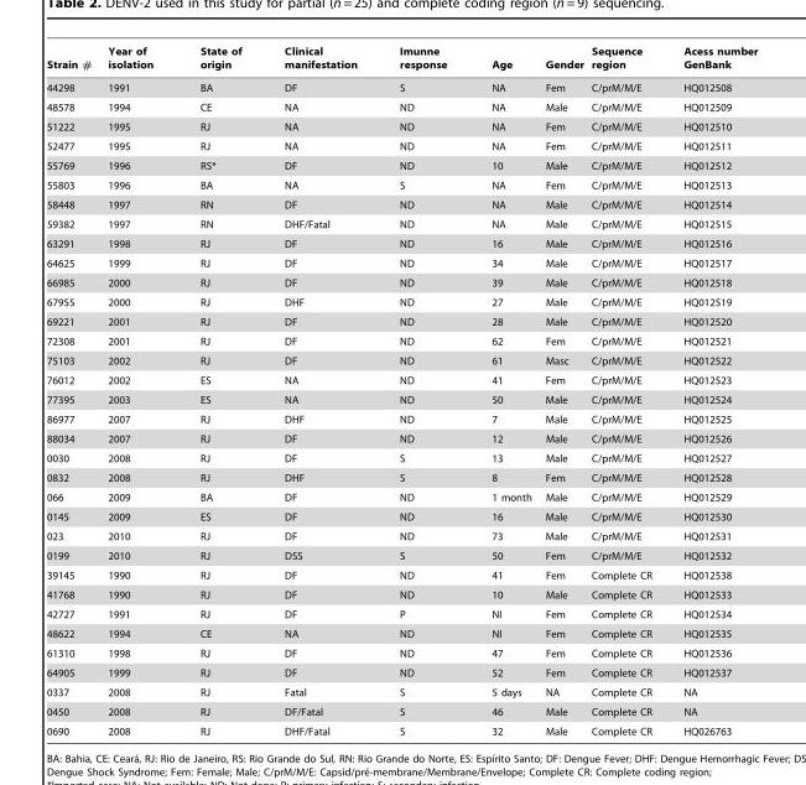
<table><thead><tr><td>Strain #</td><td>Year of isolation</td><td>State of origin</td><td>Clinical manifestation</td><td>Imunne response</td><td>Age</td><td>Gender</td><td>Sequence region</td><td>Acess number GenBank</td></tr></thead><tbody><tr><td>44298</td><td>1991</td><td>BA</td><td>DF</td><td>S</td><td>NA</td><td>Fem</td><td>C/prM/M/E</td><td>HQ012508</td></tr><tr><td>48578</td><td>1994</td><td>CE</td><td>NA</td><td>ND</td><td>NA</td><td>Male</td><td>C/prM/M/E</td><td>HQ012509</td></tr><tr><td>51222</td><td>1995</td><td>RJ</td><td>NA</td><td>ND</td><td>NA</td><td>Fem</td><td>C/prM/M/E</td><td>HQ012510</td></tr><tr><td>52477</td><td>1995</td><td>RJ</td><td>NA</td><td>ND</td><td>NA</td><td>Fem</td><td>C/prM/M/E</td><td>HQ012511</td></tr><tr><td>55769</td><td>1996</td><td>RS*</td><td>DF</td><td>ND</td><td>10</td><td>Male</td><td>C/prM/M/E</td><td>HQ012512</td></tr><tr><td>55803</td><td>1996</td><td>BA</td><td>NA</td><td>S</td><td>NA</td><td>Fem</td><td>C/prM/M/E</td><td>HQ012513</td></tr><tr><td>58448</td><td>1997</td><td>RN</td><td>DF</td><td>ND</td><td>NA</td><td>Male</td><td>C/prM/M/E</td><td>HQ012514</td></tr><tr><td>59382</td><td>1997</td><td>RN</td><td>DHF/Fatal</td><td>ND</td><td>NA</td><td>Male</td><td>C/prM/M/E</td><td>HQ012515</td></tr><tr><td>63291</td><td>1998</td><td>RJ</td><td>DF</td><td>ND</td><td>16</td><td>Male</td><td>C/prM/M/E</td><td>HQ012516</td></tr><tr><td>64625</td><td>1999</td><td>RJ</td><td>DF</td><td>ND</td><td>34</td><td>Male</td><td>C/prM/M/E</td><td>HQ012517</td></tr><tr><td>66985</td><td>2000</td><td>RJ</td><td>DF</td><td>ND</td><td>39</td><td>Male</td><td>C/prM/M/E</td><td>HQ012518</td></tr><tr><td>67955</td><td>2000</td><td>RJ</td><td>DHF</td><td>ND</td><td>27</td><td>Male</td><td>C/prM/M/E</td><td>HQ012519</td></tr><tr><td>69221</td><td>2001</td><td>RJ</td><td>DF</td><td>ND</td><td>28</td><td>Male</td><td>C/prM/M/E</td><td>HQ012520</td></tr><tr><td>72308</td><td>2001</td><td>RJ</td><td>DF</td><td>ND</td><td>62</td><td>Fem</td><td>C/prM/M/E</td><td>HQ012521</td></tr><tr><td>75103</td><td>2002</td><td>RJ</td><td>DF</td><td>ND</td><td>61</td><td>Masc</td><td>C/prM/M/E</td><td>HQ012522</td></tr><tr><td>76012</td><td>2002</td><td>ES</td><td>NA</td><td>ND</td><td>41</td><td>Fem</td><td>C/prM/M/E</td><td>HQ012523</td></tr><tr><td>77395</td><td>2003</td><td>ES</td><td>NA</td><td>ND</td><td>50</td><td>Male</td><td>C/prM/M/E</td><td>HQ012524</td></tr><tr><td>86977</td><td>2007</td><td>RJ</td><td>DHF</td><td>ND</td><td>7</td><td>Male</td><td>C/prM/M/E</td><td>HQ012525</td></tr><tr><td>88034</td><td>2007</td><td>RJ</td><td>DF</td><td>ND</td><td>12</td><td>Male</td><td>C/prM/M/E</td><td>HQ012526</td></tr><tr><td>0030</td><td>2008</td><td>RJ</td><td>DF</td><td>S</td><td>13</td><td>Male</td><td>C/prM/M/E</td><td>HQ012527</td></tr><tr><td>0832</td><td>2008</td><td>RJ</td><td>DHF</td><td>S</td><td>8</td><td>Fem</td><td>C/prM/M/E</td><td>HQ012528</td></tr><tr><td>066</td><td>2009</td><td>BA</td><td>DF</td><td>ND</td><td>1 month</td><td>Male</td><td>C/prM/M/E</td><td>HQ012529</td></tr><tr><td>0145</td><td>2009</td><td>ES</td><td>DF</td><td>ND</td><td>16</td><td>Male</td><td>C/prM/M/E</td><td>HQ012530</td></tr><tr><td>023</td><td>2010</td><td>RJ</td><td>DF</td><td>ND</td><td>73</td><td>Male</td><td>C/prM/M/E</td><td>HQ012531</td></tr><tr><td>0199</td><td>2010</td><td>RJ</td><td>DSS</td><td>S</td><td>50</td><td>Fem</td><td>C/prM/M/E</td><td>HQ012532</td></tr><tr><td>39145</td><td>1990</td><td>RJ</td><td>DF</td><td>ND</td><td>41</td><td>Fem</td><td>Complete CR</td><td>HQ012538</td></tr><tr><td>41768</td><td>1990</td><td>RJ</td><td>DF</td><td>ND</td><td>10</td><td>Male</td><td>Complete CR</td><td>HQ012533</td></tr><tr><td>42727</td><td>1991</td><td>RJ</td><td>DF</td><td>P</td><td>NI</td><td>Fem</td><td>Complete CR</td><td>HQ012534</td></tr><tr><td>48622</td><td>1994</td><td>CE</td><td>NA</td><td>ND</td><td>NI</td><td>Fem</td><td>Complete CR</td><td>HQ012535</td></tr><tr><td>61310</td><td>1998</td><td>RJ</td><td>DF</td><td>ND</td><td>47</td><td>Fem</td><td>Complete CR</td><td>HQ012536</td></tr><tr><td>64905</td><td>1999</td><td>RJ</td><td>DF</td><td>ND</td><td>52</td><td>Fem</td><td>Complete CR</td><td>HQ012537</td></tr><tr><td>0337</td><td>2008</td><td>RJ</td><td>Fatal</td><td>S</td><td>5 days</td><td>NA</td><td>Complete CR</td><td>NA</td></tr><tr><td>0450</td><td>2008</td><td>RJ</td><td>DF/Fatal</td><td>S</td><td>46</td><td>Male</td><td>Complete CR</td><td>NA</td></tr><tr><td>0690</td><td>2008</td><td>RJ</td><td>DHF/Fatal</td><td>S</td><td>32</td><td>Male</td><td>Complete CR</td><td>HQ026763</td></tr></tbody></table>